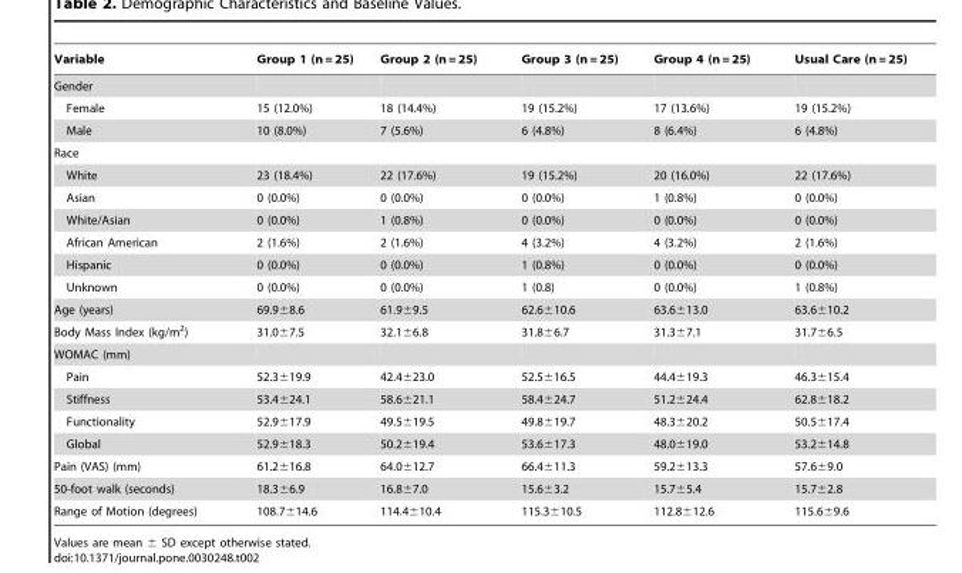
<table><thead><tr><td>Variable</td><td>Group 1 (n = 25)</td><td>Group 2 (n = 25)</td><td>Group 3 (n = 25)</td><td>Group 4 (n = 25)</td><td>Usual Care (n = 25)</td></tr></thead><tbody><tr><td colspan="6">Gender</td></tr><tr><td>Female</td><td>15 (12.0%)</td><td>18 (14.4%)</td><td>19 (15.2%)</td><td>17 (13.6%)</td><td>19 (15.2%)</td></tr><tr><td>Male</td><td>10 (8.0%)</td><td>7 (5.6%)</td><td>6 (4.8%)</td><td>8 (6.4%)</td><td>6 (4.8%)</td></tr><tr><td colspan="6">Race</td></tr><tr><td>White</td><td>23 (18.4%)</td><td>22 (17.6%)</td><td>19 (15.2%)</td><td>20 (16.0%)</td><td>22 (17.6%)</td></tr><tr><td>Asian</td><td>0 (0.0%)</td><td>0 (0.0%)</td><td>0 (0.0%)</td><td>1 (0.8%)</td><td>0 (0.0%)</td></tr><tr><td>White/Asian</td><td>0 (0.0%)</td><td>1 (0.8%)</td><td>0 (0.0%)</td><td>0 (0.0%)</td><td>0 (0.0%)</td></tr><tr><td>African American</td><td>2 (1.6%)</td><td>2 (1.6%)</td><td>4 (3.2%)</td><td>4 (3.2%)</td><td>2 (1.6%)</td></tr><tr><td>Hispanic</td><td>0 (0.0%)</td><td>0 (0.0%)</td><td>1 (0.8%)</td><td>0 (0.0%)</td><td>0 (0.0%)</td></tr><tr><td>Unknown</td><td>0 (0.0%)</td><td>0 (0.0%)</td><td>1 (0.8)</td><td>0 (0.0%)</td><td>1 (0.8%)</td></tr><tr><td>Age (years)</td><td>69.9±8.6</td><td>61.9±9.5</td><td>62.6±10.6</td><td>63.6±13.0</td><td>63.6±10.2</td></tr><tr><td>Body Mass Index (kg/m<sup>2</sup>)</td><td>31.0±7.5</td><td>32.1±6.8</td><td>31.8±6.7</td><td>31.3±7.1</td><td>31.7±6.5</td></tr><tr><td colspan="6">WOMAC (mm)</td></tr><tr><td>Pain</td><td>52.3±19.9</td><td>42.4±23.0</td><td>52.5±16.5</td><td>44.4±19.3</td><td>46.3±15.4</td></tr><tr><td>Stiffness</td><td>53.4±24.1</td><td>58.6±21.1</td><td>58.4±24.7</td><td>51.2±24.4</td><td>62.8±18.2</td></tr><tr><td>Functionality</td><td>52.9±17.9</td><td>49.5±19.5</td><td>49.8±19.7</td><td>48.3±20.2</td><td>50.5±17.4</td></tr><tr><td>Global</td><td>52.9±18.3</td><td>50.2±19.4</td><td>53.6±17.3</td><td>48.0±19.0</td><td>53.2±14.8</td></tr><tr><td>Pain (VAS) (mm)</td><td>61.2±16.8</td><td>64.0±12.7</td><td>66.4±11.3</td><td>59.2±13.3</td><td>57.6±9.0</td></tr><tr><td>50-foot walk (seconds)</td><td>18.3±6.9</td><td>16.8±7.0</td><td>15.6±3.2</td><td>15.7±5.4</td><td>15.7±2.8</td></tr><tr><td>Range of Motion (degrees)</td><td>108.7±14.6</td><td>114.4±10.4</td><td>115.3±10.5</td><td>112.8±12.6</td><td>115.6±9.6</td></tr></tbody></table>